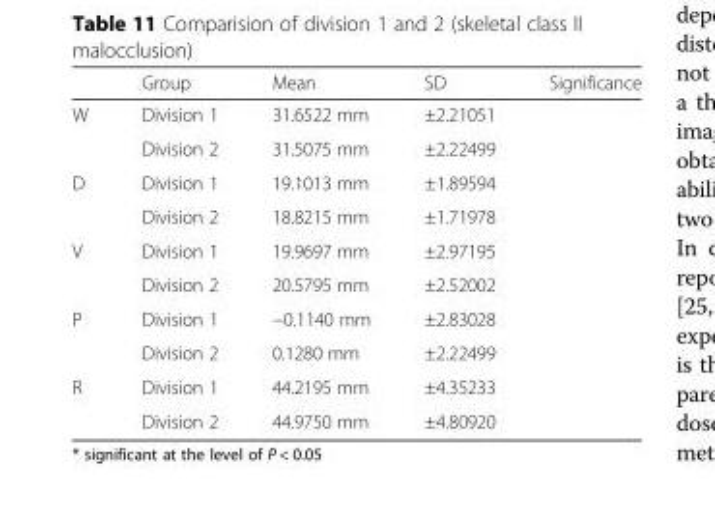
<table><thead><tr><td></td><td>Group</td><td>Mean</td><td>SD</td><td>Significance</td></tr></thead><tbody><tr><td rowspan="2">W</td><td>Division 1</td><td>31.6522 mm</td><td>±2.21051</td><td rowspan="2"></td></tr><tr><td>Division 2</td><td>31.5075 mm</td><td>±2.22499</td></tr><tr><td rowspan="2">D</td><td>Division 1</td><td>19.1013 mm</td><td>±1.89594</td><td rowspan="2"></td></tr><tr><td>Division 2</td><td>18.8215 mm</td><td>±1.71978</td></tr><tr><td rowspan="2">V</td><td>Division 1</td><td>19.9697 mm</td><td>±2.97195</td><td rowspan="2"></td></tr><tr><td>Division 2</td><td>20.5795 mm</td><td>±2.52002</td></tr><tr><td rowspan="2">P</td><td>Division 1</td><td>−0.1140 mm</td><td>±2.83028</td><td rowspan="2"></td></tr><tr><td>Division 2</td><td>0.1280 mm</td><td>±2.22499</td></tr><tr><td rowspan="2">R</td><td>Division 1</td><td>44.2195 mm</td><td>±4.35233</td><td rowspan="2"></td></tr><tr><td>Division 2</td><td>44.9750 mm</td><td>±4.80920</td></tr></tbody></table>